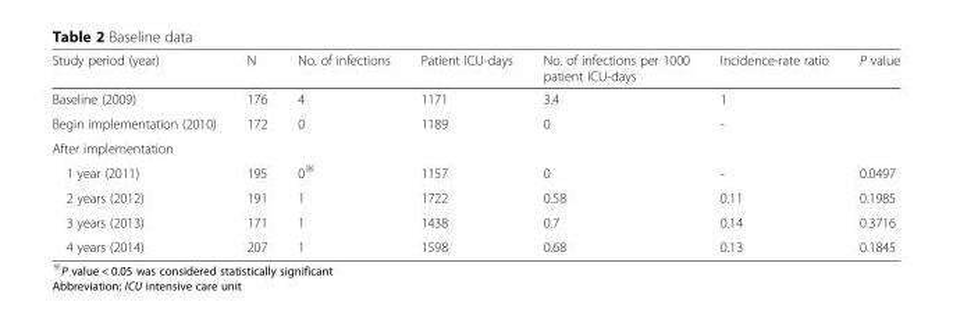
<table><thead><tr><td>Study period (year)</td><td>N</td><td>No. of infections</td><td>Patient ICU-days</td><td>No. of infections per 1000 patient ICU-days</td><td>Incidence-rate ratio</td><td>P value</td></tr></thead><tbody><tr><td>Baseline (2009)</td><td>176</td><td>4</td><td>1171</td><td>3.4</td><td>1</td><td></td></tr><tr><td>Begin implementation (2010)</td><td>172</td><td>0</td><td>1189</td><td>0</td><td>-</td><td></td></tr><tr><td colspan="7">After implementation</td></tr><tr><td>1 year (2011)</td><td>195</td><td>0<sup>※</sup></td><td>1157</td><td>0</td><td>-</td><td>0.0497</td></tr><tr><td>2 years (2012)</td><td>191</td><td>1</td><td>1722</td><td>0.58</td><td>0.11</td><td>0.1985</td></tr><tr><td>3 years (2013)</td><td>171</td><td>1</td><td>1438</td><td>0.7</td><td>0.14</td><td>0.3716</td></tr><tr><td>4 years (2014)</td><td>207</td><td>1</td><td>1598</td><td>0.68</td><td>0.13</td><td>0.1845</td></tr></tbody></table>